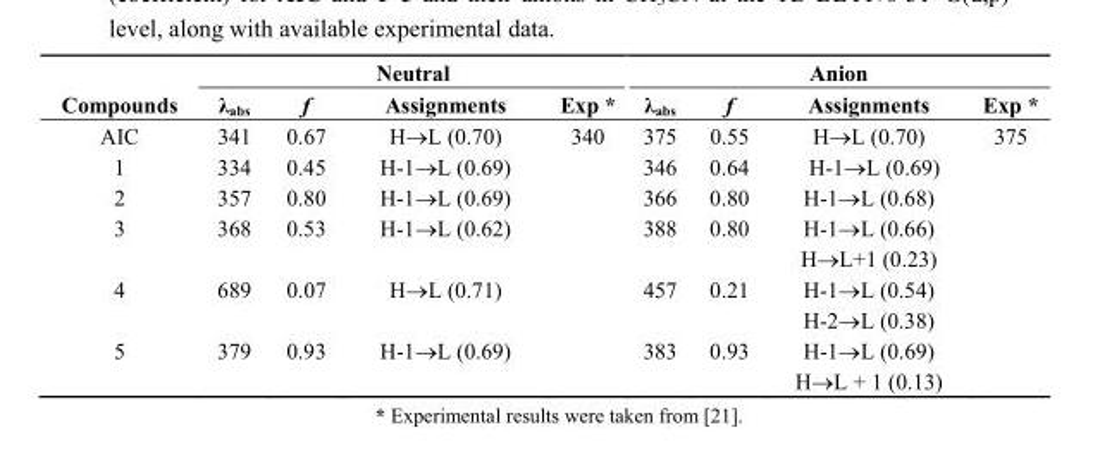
<table><thead><tr><td rowspan="2">Compounds</td><td colspan="4">Neutral</td><td colspan="4">Anion</td></tr><tr><td>λ<sub>abs</sub></td><td>f</td><td>Assignments</td><td>Exp *</td><td>λ<sub>abs</sub></td><td>f</td><td>Assignments</td><td>Exp *</td></tr></thead><tbody><tr><td>AIC</td><td>341</td><td>0.67</td><td>H→L (0.70)</td><td>340</td><td>375</td><td>0.55</td><td>H→L (0.70)</td><td>375</td></tr><tr><td>1</td><td>334</td><td>0.45</td><td>H-1→L (0.69)</td><td></td><td>346</td><td>0.64</td><td>H-1→L (0.69)</td><td></td></tr><tr><td>2</td><td>357</td><td>0.80</td><td>H-1→L (0.69)</td><td></td><td>366</td><td>0.80</td><td>H-1→L (0.68)</td><td></td></tr><tr><td>3</td><td>368</td><td>0.53</td><td>H-1→L (0.62)</td><td></td><td>388</td><td>0.80</td><td>H-1→L (0.66) H→L+1 (0.23)</td><td></td></tr><tr><td>4</td><td>689</td><td>0.07</td><td>H→L (0.71)</td><td></td><td>457</td><td>0.21</td><td>H-1→L (0.54) H-2→L (0.38)</td><td></td></tr><tr><td>5</td><td>379</td><td>0.93</td><td>H-1→L (0.69)</td><td></td><td>383</td><td>0.93</td><td>H-1→L (0.69) H→L + 1 (0.13)</td><td></td></tr></tbody></table>